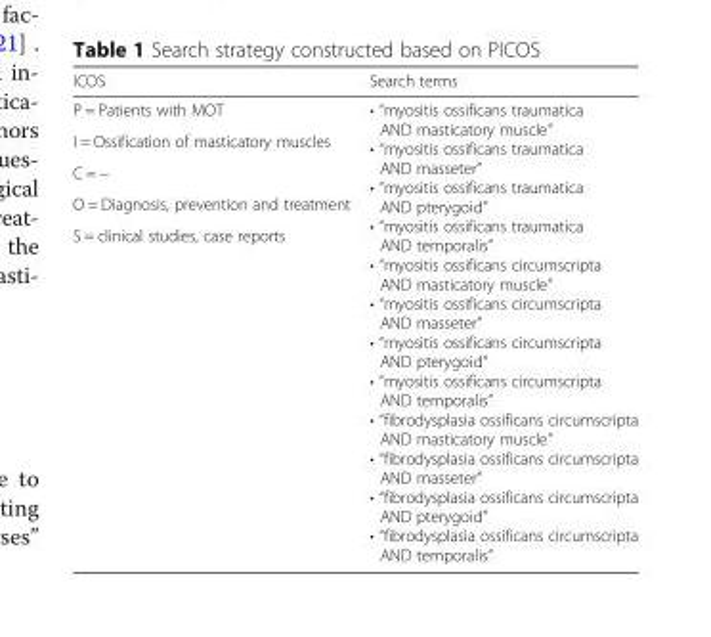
<table><thead><tr><td>ICOS</td><td>Search terms</td></tr></thead><tbody><tr><td>P = Patients with MOT</td><td rowspan="5">• “myositis ossificans traumatica AND masticatory muscle” • “myositis ossificans traumatica AND masseter” • “myositis ossificans traumatica AND pterygoid” • “myositis ossificans traumatica AND temporalis” • “myositis ossificans circumscripta AND masticatory muscle” • “myositis ossificans circumscripta AND masseter” • “myositis ossificans circumscripta AND pterygoid” • “myositis ossificans circumscripta AND temporalis” • “fibrodysplasia ossificans circumscripta AND masticatory muscle” • “fibrodysplasia ossificans circumscripta AND masseter” • “fibrodysplasia ossificans circumscripta AND pterygoid” • “fibrodysplasia ossificans circumscripta AND temporalis”</td></tr><tr><td>I = Ossification of masticatory muscles</td></tr><tr><td>C = −</td></tr><tr><td>O = Diagnosis, prevention and treatment</td></tr><tr><td>S = clinical studies, case reports</td></tr></tbody></table>